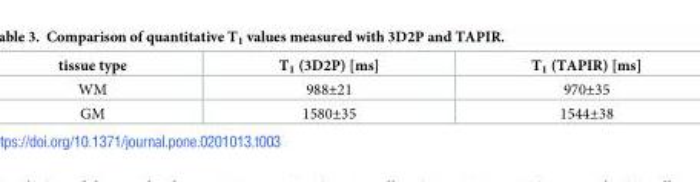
<table><thead><tr><td>tissue type</td><td>T<sub>1</sub> (3D2P) [ms]</td><td>T<sub>1</sub> (TAPIR) [ms]</td></tr></thead><tbody><tr><td>WM</td><td>988±21</td><td>970±35</td></tr><tr><td>GM</td><td>1580±35</td><td>1544±38</td></tr></tbody></table>